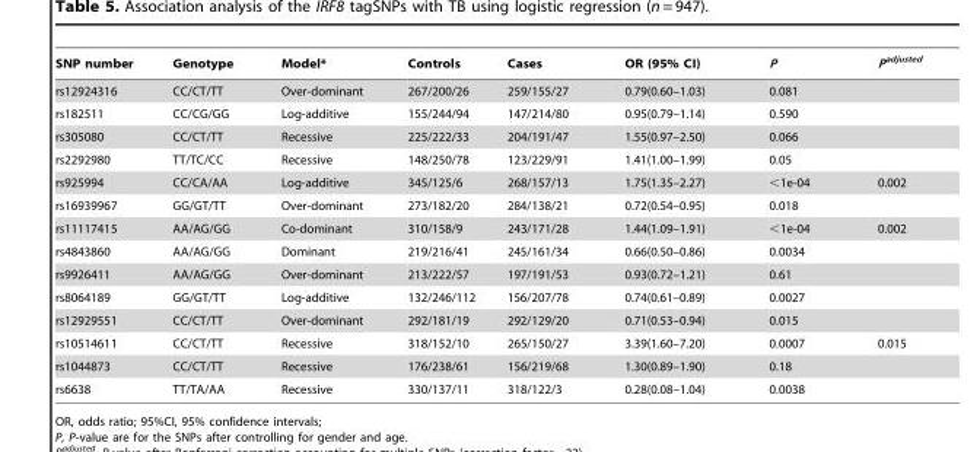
<table><thead><tr><td>SNP number</td><td>Genotype</td><td>Model*</td><td>Controls</td><td>Cases</td><td>OR (95% CI)</td><td>P</td><td>P<sup>adjusted</sup></td></tr></thead><tbody><tr><td>rs12924316</td><td>CC/CT/TT</td><td>Over-dominant</td><td>267/200/26</td><td>259/155/27</td><td>0.79(0.60–1.03)</td><td>0.081</td><td></td></tr><tr><td>rs182511</td><td>CC/CG/GG</td><td>Log-additive</td><td>155/244/94</td><td>147/214/80</td><td>0.95(0.79–1.14)</td><td>0.590</td><td></td></tr><tr><td>rs305080</td><td>CC/CT/TT</td><td>Recessive</td><td>225/222/33</td><td>204/191/47</td><td>1.55(0.97–2.50)</td><td>0.066</td><td></td></tr><tr><td>rs2292980</td><td>TT/TC/CC</td><td>Recessive</td><td>148/250/78</td><td>123/229/91</td><td>1.41(1.00–1.99)</td><td>0.05</td><td></td></tr><tr><td>rs925994</td><td>CC/CA/AA</td><td>Log-additive</td><td>345/125/6</td><td>268/157/13</td><td>1.75(1.35–2.27)</td><td>&lt;1e-04</td><td>0.002</td></tr><tr><td>rs16939967</td><td>GG/GT/TT</td><td>Over-dominant</td><td>273/182/20</td><td>284/138/21</td><td>0.72(0.54–0.95)</td><td>0.018</td><td></td></tr><tr><td>rs11117415</td><td>AA/AG/GG</td><td>Co-dominant</td><td>310/158/9</td><td>243/171/28</td><td>1.44(1.09–1.91)</td><td>&lt;1e-04</td><td>0.002</td></tr><tr><td>rs4843860</td><td>AA/AG/GG</td><td>Dominant</td><td>219/216/41</td><td>245/161/34</td><td>0.66(0.50–0.86)</td><td>0.0034</td><td></td></tr><tr><td>rs9926411</td><td>AA/AG/GG</td><td>Over-dominant</td><td>213/222/57</td><td>197/191/53</td><td>0.93(0.72–1.21)</td><td>0.61</td><td></td></tr><tr><td>rs8064189</td><td>GG/GT/TT</td><td>Log-additive</td><td>132/246/112</td><td>156/207/78</td><td>0.74(0.61–0.89)</td><td>0.0027</td><td></td></tr><tr><td>rs12929551</td><td>CC/CT/TT</td><td>Over-dominant</td><td>292/181/19</td><td>292/129/20</td><td>0.71(0.53–0.94)</td><td>0.015</td><td></td></tr><tr><td>rs10514611</td><td>CC/CT/TT</td><td>Recessive</td><td>318/152/10</td><td>265/150/27</td><td>3.39(1.60–7.20)</td><td>0.0007</td><td>0.015</td></tr><tr><td>rs1044873</td><td>CC/CT/TT</td><td>Recessive</td><td>176/238/61</td><td>156/219/68</td><td>1.30(0.89–1.90)</td><td>0.18</td><td></td></tr><tr><td>rs6638</td><td>TT/TA/AA</td><td>Recessive</td><td>330/137/11</td><td>318/122/3</td><td>0.28(0.08–1.04)</td><td>0.0038</td><td></td></tr></tbody></table>